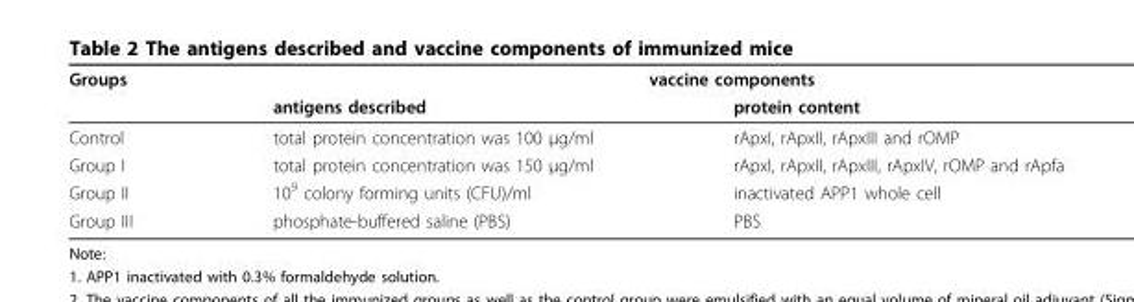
<table><thead><tr><td rowspan="2">Groups</td><td colspan="2">vaccine components</td></tr><tr><td>antigens described</td><td>protein content</td></tr></thead><tbody><tr><td>Control</td><td>total protein concentration was 100 μg/ml</td><td>rApxI, rApxII, rApxIII and rOMP</td></tr><tr><td>Group I</td><td>total protein concentration was 150 μg/ml</td><td>rApxI, rApxII, rApxIII, rApxIV, rOMP and rApfa</td></tr><tr><td>Group II</td><td>10<sup>9</sup> colony forming units (CFU)/ml</td><td>inactivated APP1 whole cell</td></tr><tr><td>Group III</td><td>phosphate-buffered saline (PBS)</td><td>PBS</td></tr></tbody></table>